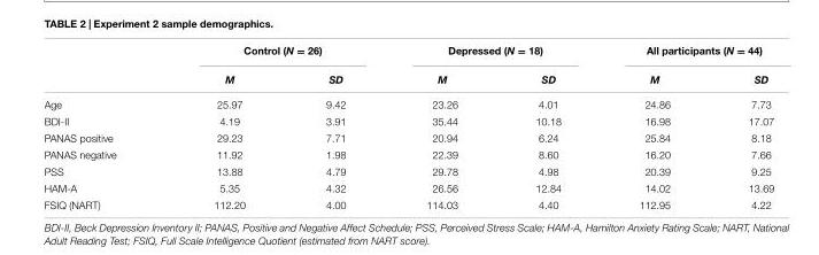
<table><thead><tr><td rowspan="2"></td><td colspan="2">Control (N = 26)</td><td colspan="2">Depressed (N = 18)</td><td colspan="2">All participants (N = 44)</td></tr><tr><td>M</td><td>SD</td><td>M</td><td>SD</td><td>M</td><td>SD</td></tr></thead><tbody><tr><td>Age</td><td>25.97</td><td>9.42</td><td>23.26</td><td>4.01</td><td>24.86</td><td>7.73</td></tr><tr><td>BDI-II</td><td>4.19</td><td>3.91</td><td>35.44</td><td>10.18</td><td>16.98</td><td>17.07</td></tr><tr><td>PANAS positive</td><td>29.23</td><td>7.71</td><td>20.94</td><td>6.24</td><td>25.84</td><td>8.18</td></tr><tr><td>PANAS negative</td><td>11.92</td><td>1.98</td><td>22.39</td><td>8.60</td><td>16.20</td><td>7.66</td></tr><tr><td>PSS</td><td>13.88</td><td>4.79</td><td>29.78</td><td>4.98</td><td>20.39</td><td>9.25</td></tr><tr><td>HAM-A</td><td>5.35</td><td>4.32</td><td>26.56</td><td>12.84</td><td>14.02</td><td>13.69</td></tr><tr><td>FSIQ (NART)</td><td>112.20</td><td>4.00</td><td>114.03</td><td>4.40</td><td>112.95</td><td>4.22</td></tr></tbody></table>